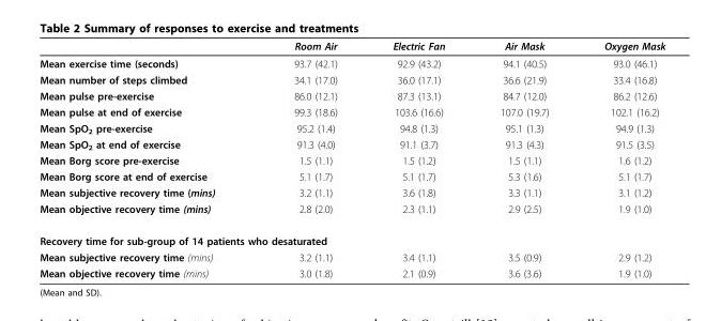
<table><thead><tr><td></td><td>Room Air</td><td>Electric Fan</td><td>Air Mask</td><td>Oxygen Mask</td></tr></thead><tbody><tr><td>Mean exercise time (seconds)</td><td>93.7 (42.1)</td><td>92.9 (43.2)</td><td>94.1 (40.5)</td><td>93.0 (46.1)</td></tr><tr><td>Mean number of steps climbed</td><td>34.1 (17.0)</td><td>36.0 (17.1)</td><td>36.6 (21.9)</td><td>33.4 (16.8)</td></tr><tr><td>Mean pulse pre-exercise</td><td>86.0 (12.1)</td><td>87.3 (13.1)</td><td>84.7 (12.0)</td><td>86.2 (12.6)</td></tr><tr><td>Mean pulse at end of exercise</td><td>99.3 (18.6)</td><td>103.6 (16.6)</td><td>107.0 (19.7)</td><td>102.1 (16.2)</td></tr><tr><td>Mean SpO<sub>2</sub> pre-exercise</td><td>95.2 (1.4)</td><td>94.8 (1.3)</td><td>95.1 (1.3)</td><td>94.9 (1.3)</td></tr><tr><td>Mean SpO<sub>2</sub> at end of exercise</td><td>91.3 (4.0)</td><td>91.1 (3.7)</td><td>91.3 (4.3)</td><td>91.5 (3.5)</td></tr><tr><td>Mean Borg score pre-exercise</td><td>1.5 (1.1)</td><td>1.5 (1.2)</td><td>1.5 (1.1)</td><td>1.6 (1.2)</td></tr><tr><td>Mean Borg score at end of exercise</td><td>5.1 (1.7)</td><td>5.1 (1.7)</td><td>5.3 (1.6)</td><td>5.1 (1.7)</td></tr><tr><td>Mean subjective recovery time (mins)</td><td>3.2 (1.1)</td><td>3.6 (1.8)</td><td>3.3 (1.1)</td><td>3.1 (1.2)</td></tr><tr><td>Mean objective recovery time (mins)</td><td>2.8 (2.0)</td><td>2.3 (1.1)</td><td>2.9 (2.5)</td><td>1.9 (1.0)</td></tr><tr><td colspan="5">Recovery time for sub-group of 14 patients who desaturated</td></tr><tr><td>Mean subjective recovery time (mins)</td><td>3.2 (1.1)</td><td>3.4 (1.1)</td><td>3.5 (0.9)</td><td>2.9 (1.2)</td></tr><tr><td>Mean objective recovery time (mins)</td><td>3.0 (1.8)</td><td>2.1 (0.9)</td><td>3.6 (3.6)</td><td>1.9 (1.0)</td></tr></tbody></table>